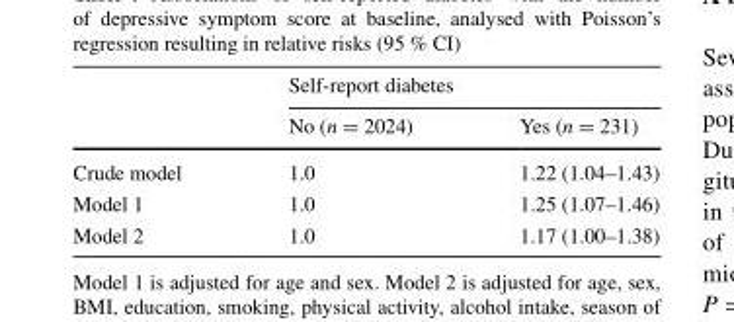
<table><thead><tr><td rowspan="2"></td><td colspan="2">Self-report diabetes</td></tr><tr><td>No (n = 2024)</td><td>Yes (n = 231)</td></tr></thead><tbody><tr><td>Crude model</td><td>1.0</td><td>1.22 (1.04–1.43)</td></tr><tr><td>Model 1</td><td>1.0</td><td>1.25 (1.07–1.46)</td></tr><tr><td>Model 2</td><td>1.0</td><td>1.17 (1.00–1.38)</td></tr></tbody></table>